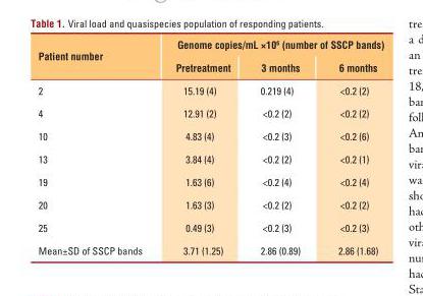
<table><thead><tr><td rowspan="2">Patient number</td><td colspan="3">Genome copies/mL ×10<sup>6</sup> (number of SSCP bands)</td></tr><tr><td>Pretreatment</td><td>3 months</td><td>6 months</td></tr></thead><tbody><tr><td>2</td><td>15.19 (4)</td><td>0.219 (4)</td><td>&lt;0.2 (2)</td></tr><tr><td>4</td><td>12.91 (2)</td><td>&lt;0.2 (2)</td><td>&lt;0.2 (2)</td></tr><tr><td>10</td><td>4.83 (4)</td><td>&lt;0.2 (3)</td><td>&lt;0.2 (6)</td></tr><tr><td>13</td><td>3.84 (4)</td><td>&lt;0.2 (2)</td><td>&lt;0.2 (1)</td></tr><tr><td>19</td><td>1.63 (6)</td><td>&lt;0.2 (4)</td><td>&lt;0.2 (4)</td></tr><tr><td>20</td><td>1.63 (3)</td><td>&lt;0.2 (2)</td><td>&lt;0.2 (2)</td></tr><tr><td>25</td><td>0.49 (3)</td><td>&lt;0.2 (3)</td><td>&lt;0.2 (3)</td></tr><tr><td>Mean±SD of SSCP bands</td><td>3.71 (1.25)</td><td>2.86 (0.89)</td><td>2.86 (1.68)</td></tr></tbody></table>